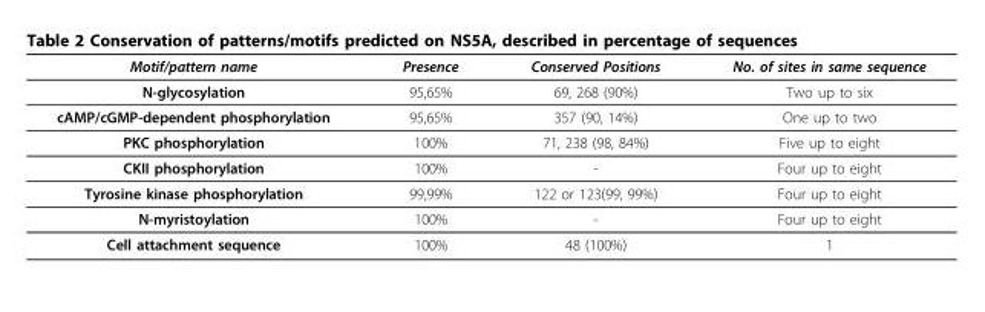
<table><thead><tr><td>Motif/pattern name</td><td>Presence</td><td>Conserved Positions</td><td>No. of sites in same sequence</td></tr></thead><tbody><tr><td>N-glycosylation</td><td>95,65%</td><td>69, 268 (90%)</td><td>Two up to six</td></tr><tr><td>cAMP/cGMP-dependent phosphorylation</td><td>95,65%</td><td>357 (90, 14%)</td><td>One up to two</td></tr><tr><td>PKC phosphorylation</td><td>100%</td><td>71, 238 (98, 84%)</td><td>Five up to eight</td></tr><tr><td>CKII phosphorylation</td><td>100%</td><td>-</td><td>Four up to eight</td></tr><tr><td>Tyrosine kinase phosphorylation</td><td>99,99%</td><td>122 or 123(99, 99%)</td><td>Four up to eight</td></tr><tr><td>N-myristoylation</td><td>100%</td><td>-</td><td>Four up to eight</td></tr><tr><td>Cell attachment sequence</td><td>100%</td><td>48 (100%)</td><td>1</td></tr></tbody></table>